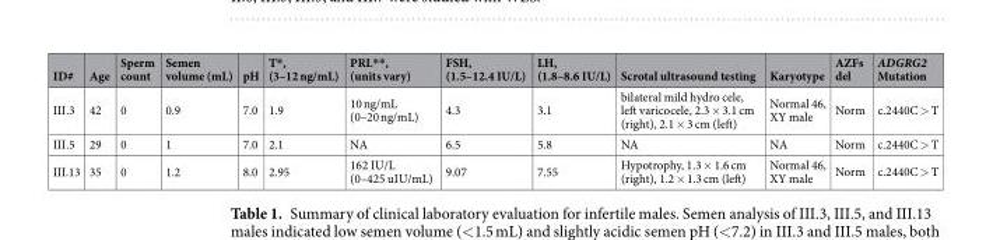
<table><thead><tr><td>ID#</td><td>Age</td><td>Sperm count</td><td>Semen volume (mL)</td><td>pH</td><td>T*, (3–12 ng/mL)</td><td>PRL**, (units vary)</td><td>FSH, (1.5–12.4 IU/L)</td><td>LH, (1.8–8.6 IU/L)</td><td>Scrotal ultrasound testing</td><td>Karyotype</td><td>AZFs del</td><td>ADGRG2 Mutation</td></tr></thead><tbody><tr><td>III.3</td><td>42</td><td>0</td><td>0.9</td><td>7.0</td><td>1.9</td><td>10 ng/mL (0–20 ng/mL)</td><td>4.3</td><td>3.1</td><td>bilateral mild hydro cele, left varicocele, 2.3 × 3.1 cm (right), 2.1 × 3 cm (left)</td><td>Normal 46, XY male</td><td>Norm</td><td>c.2440C &gt; T</td></tr><tr><td>III.5</td><td>29</td><td>0</td><td>1</td><td>7.0</td><td>2.1</td><td>NA</td><td>6.5</td><td>5.8</td><td>NA</td><td>NA</td><td>Norm</td><td>c.2440C &gt; T</td></tr><tr><td>III.13</td><td>35</td><td>0</td><td>1.2</td><td>8.0</td><td>2.95</td><td>162 IU/L (0–425 uIU/mL)</td><td>9.07</td><td>7.55</td><td>Hypotrophy, 1.3 × 1.6 cm (right), 1.2 × 1.3 cm (left)</td><td>Normal 46, XY male</td><td>Norm</td><td>c.2440C &gt; T</td></tr></tbody></table>